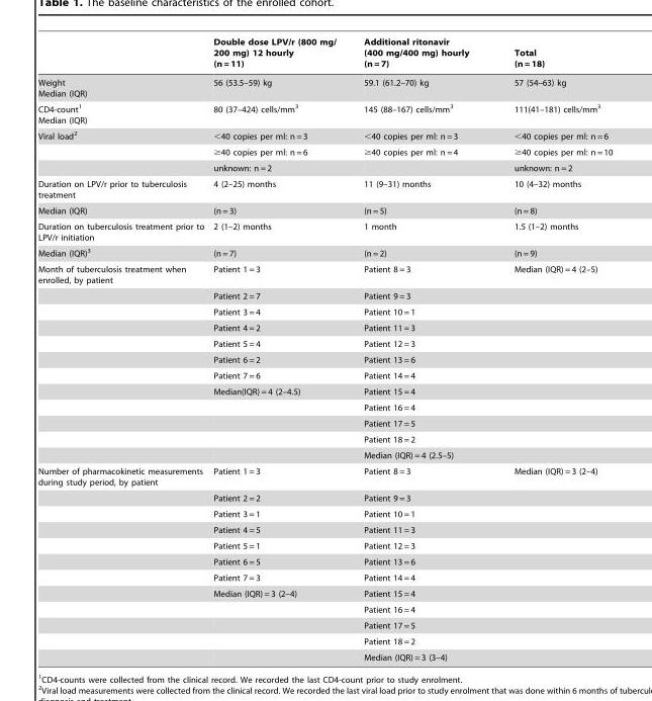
<table><thead><tr><td></td><td>Double dose LPV/r (800 mg/ 200 mg) 12 hourly (n = 11)</td><td>Additional ritonavir (400 mg/400 mg) hourly (n = 7)</td><td>Total (n = 18)</td></tr></thead><tbody><tr><td>Weight Median (IQR)</td><td>56 (53.5–59) kg</td><td>59.1 (61.2–70) kg</td><td>57 (54–63) kg</td></tr><tr><td>CD4-count<sup>1</sup> Median (IQR)</td><td>80 (37–424) cells/mm<sup>3</sup></td><td>145 (88–167) cells/mm<sup>3</sup></td><td>111(41–181) cells/mm<sup>3</sup></td></tr><tr><td rowspan="3">Viral load<sup>2</sup></td><td>&lt;40 copies per ml: n = 3</td><td>&lt;40 copies per ml: n = 3</td><td>&lt;40 copies per ml: n = 6</td></tr><tr><td>≥40 copies per ml: n = 6</td><td>≥40 copies per ml: n = 4</td><td>≥40 copies per ml: n = 10</td></tr><tr><td>unknown: n = 2</td><td></td><td>unknown: n = 2</td></tr><tr><td>Duration on LPV/r prior to tuberculosis treatment</td><td>4 (2–25) months</td><td>11 (9–31) months</td><td>10 (4–32) months</td></tr><tr><td>Median (IQR)</td><td>(n = 3)</td><td>(n = 5)</td><td>(n = 8)</td></tr><tr><td>Duration on tuberculosis treatment prior to LPV/r initiation</td><td>2 (1–2) months</td><td>1 month</td><td>1.5 (1–2) months</td></tr><tr><td>Median (IQR)<sup>3</sup></td><td>(n = 7)</td><td>(n = 2)</td><td>(n = 9)</td></tr><tr><td rowspan="12">Month of tuberculosis treatment when enrolled, by patient</td><td>Patient 1 = 3</td><td>Patient 8 = 3</td><td>Median (IQR) = 4 (2–5)</td></tr><tr><td>Patient 2 = 7</td><td>Patient 9 = 3</td><td></td></tr><tr><td>Patient 3 = 4</td><td>Patient 10 = 1</td><td></td></tr><tr><td>Patient 4 = 2</td><td>Patient 11 = 3</td><td></td></tr><tr><td>Patient 5 = 4</td><td>Patient 12 = 3</td><td></td></tr><tr><td>Patient 6 = 2</td><td>Patient 13 = 6</td><td></td></tr><tr><td>Patient 7 = 6</td><td>Patient 14 = 4</td><td></td></tr><tr><td>Median(IQR) = 4 (2–4.5)</td><td>Patient 15 = 4</td><td></td></tr><tr><td></td><td>Patient 16 = 4</td><td></td></tr><tr><td></td><td>Patient 17 = 5</td><td></td></tr><tr><td></td><td>Patient 18 = 2</td><td></td></tr><tr><td></td><td>Median (IQR) = 4 (2.5–5)</td><td></td></tr><tr><td rowspan="12">Number of pharmacokinetic measurements during study period, by patient</td><td>Patient 1 = 3</td><td>Patient 8 = 3</td><td>Median (IQR) = 3 (2–4)</td></tr><tr><td>Patient 2 = 2</td><td>Patient 9 = 3</td><td></td></tr><tr><td>Patient 3 = 1</td><td>Patient 10 = 1</td><td></td></tr><tr><td>Patient 4 = 5</td><td>Patient 11 = 3</td><td></td></tr><tr><td>Patient 5 = 1</td><td>Patient 12 = 3</td><td></td></tr><tr><td>Patient 6 = 5</td><td>Patient 13 = 6</td><td></td></tr><tr><td>Patient 7 = 3</td><td>Patient 14 = 4</td><td></td></tr><tr><td>Median (IQR) = 3 (2–4)</td><td>Patient 15 = 4</td><td></td></tr><tr><td></td><td>Patient 16 = 4</td><td></td></tr><tr><td></td><td>Patient 17 = 5</td><td></td></tr><tr><td></td><td>Patient 18 = 2</td><td></td></tr><tr><td></td><td>Median (IQR) = 3 (3–4)</td><td></td></tr></tbody></table>